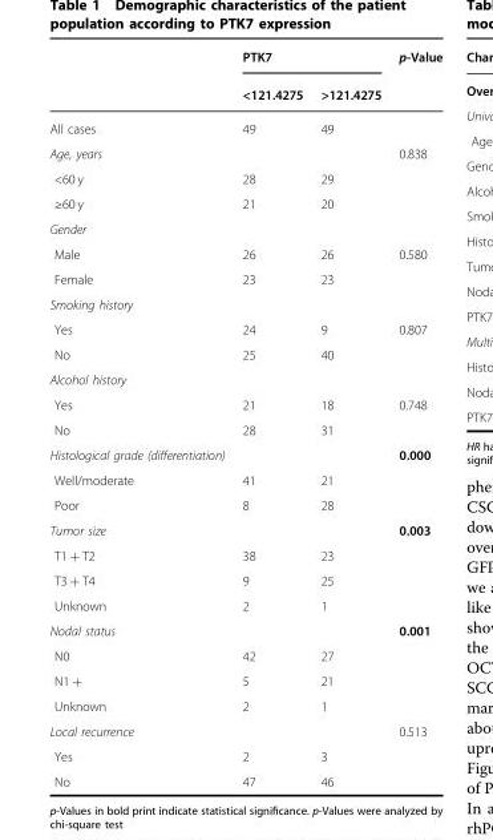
<table><thead><tr><td rowspan="2"></td><td colspan="2">PTK7</td><td rowspan="2">p-Value</td></tr><tr><td>&lt;121.4275</td><td>&gt;121.4275</td></tr></thead><tbody><tr><td>All cases</td><td>49</td><td>49</td><td></td></tr><tr><td>Age, years</td><td></td><td></td><td>0.838</td></tr><tr><td>&lt;60 y</td><td>28</td><td>29</td><td></td></tr><tr><td>≥60 y</td><td>21</td><td>20</td><td></td></tr><tr><td colspan="4">Gender</td></tr><tr><td>Male</td><td>26</td><td>26</td><td>0.580</td></tr><tr><td>Female</td><td>23</td><td>23</td><td></td></tr><tr><td colspan="4">Smoking history</td></tr><tr><td>Yes</td><td>24</td><td>9</td><td>0.807</td></tr><tr><td>No</td><td>25</td><td>40</td><td></td></tr><tr><td colspan="4">Alcohol history</td></tr><tr><td>Yes</td><td>21</td><td>18</td><td>0.748</td></tr><tr><td>No</td><td>28</td><td>31</td><td></td></tr><tr><td>Histological grade (differentiation)</td><td></td><td></td><td>0.000</td></tr><tr><td>Well/moderate</td><td>41</td><td>21</td><td></td></tr><tr><td>Poor</td><td>8</td><td>28</td><td></td></tr><tr><td>Tumor size</td><td></td><td></td><td>0.003</td></tr><tr><td>T1 + T2</td><td>38</td><td>23</td><td></td></tr><tr><td>T3 + T4</td><td>9</td><td>25</td><td></td></tr><tr><td>Unknown</td><td>2</td><td>1</td><td></td></tr><tr><td>Nodal status</td><td></td><td></td><td>0.001</td></tr><tr><td>N0</td><td>42</td><td>27</td><td></td></tr><tr><td>N1 +</td><td>5</td><td>21</td><td></td></tr><tr><td>Unknown</td><td>2</td><td>1</td><td></td></tr><tr><td>Local recurrence</td><td></td><td></td><td>0.513</td></tr><tr><td>Yes</td><td>2</td><td>3</td><td></td></tr><tr><td>No</td><td>47</td><td>46</td><td></td></tr></tbody></table>